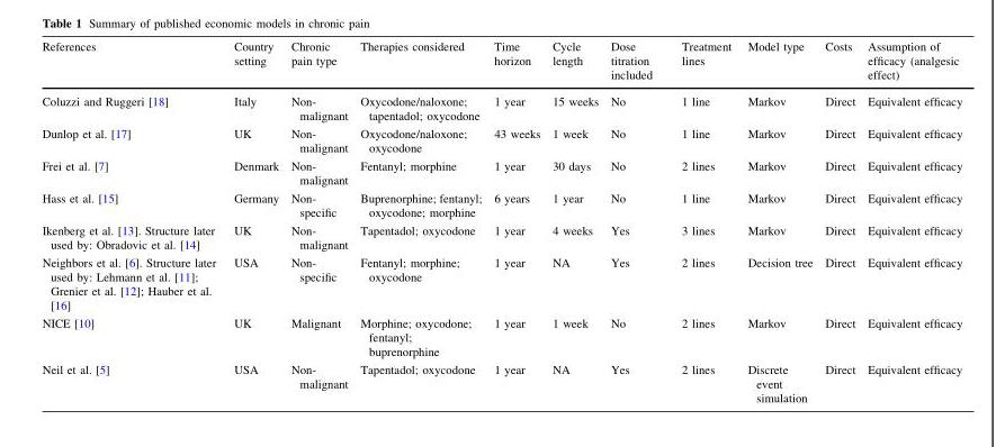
<table><thead><tr><td>References</td><td>Country setting</td><td>Chronic pain type</td><td>Therapies considered</td><td>Time horizon</td><td>Cycle length</td><td>Dose titration included</td><td>Treatment lines</td><td>Model type</td><td>Costs</td><td>Assumption of efficacy (analgesic effect)</td></tr></thead><tbody><tr><td>Coluzzi and Ruggeri [18]</td><td>Italy</td><td>Non- malignant</td><td>Oxycodone/naloxone; tapentadol; oxycodone</td><td>1 year</td><td>15 weeks</td><td>No</td><td>1 line</td><td>Markov</td><td>Direct</td><td>Equivalent efficacy</td></tr><tr><td>Dunlop et al. [17]</td><td>UK</td><td>Non- malignant</td><td>Oxycodone/naloxone; oxycodone</td><td>43 weeks</td><td>1 week</td><td>No</td><td>1 line</td><td>Markov</td><td>Direct</td><td>Equivalent efficacy</td></tr><tr><td>Frei et al. [7]</td><td>Denmark</td><td>Non- malignant</td><td>Fentanyl; morphine</td><td>1 year</td><td>30 days</td><td>No</td><td>2 lines</td><td>Markov</td><td>Direct</td><td>Equivalent efficacy</td></tr><tr><td>Hass et al. [15]</td><td>Germany</td><td>Non- specific</td><td>Buprenorphine; fentanyl; oxycodone; morphine</td><td>6 years</td><td>1 year</td><td>No</td><td>1 line</td><td>Markov</td><td>Direct</td><td>Equivalent efficacy</td></tr><tr><td>Ikenberg et al. [13]. Structure later used by: Obradovic et al. [14]</td><td>UK</td><td>Non- malignant</td><td>Tapentadol; oxycodone</td><td>1 year</td><td>4 weeks</td><td>Yes</td><td>3 lines</td><td>Markov</td><td>Direct</td><td>Equivalent efficacy</td></tr><tr><td>Neighbors et al. [6]. Structure later used by: Lehmann et al. [11]; Grenier et al. [12]; Hauber et al. [16]</td><td>USA</td><td>Non- specific</td><td>Fentanyl; morphine; oxycodone</td><td>1 year</td><td>NA</td><td>Yes</td><td>2 lines</td><td>Decision tree</td><td>Direct</td><td>Equivalent efficacy</td></tr><tr><td>NICE [10]</td><td>UK</td><td>Malignant</td><td>Morphine; oxycodone; fentanyl; buprenorphine</td><td>1 year</td><td>1 week</td><td>No</td><td>2 lines</td><td>Markov</td><td>Direct</td><td>Equivalent efficacy</td></tr><tr><td>Neil et al. [5]</td><td>USA</td><td>Non- malignant</td><td>Tapentadol; oxycodone</td><td>1 year</td><td>NA</td><td>Yes</td><td>2 lines</td><td>Discrete event simulation</td><td>Direct</td><td>Equivalent efficacy</td></tr></tbody></table>